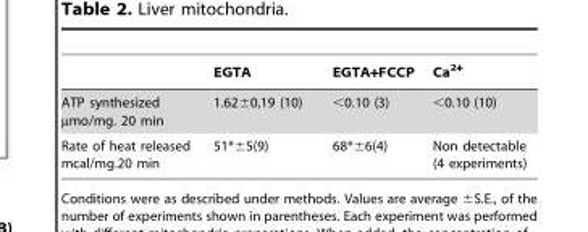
<table><thead><tr><td></td><td>EGTA</td><td>EGTA+FCCP</td><td>Ca<sup>2+</sup></td></tr></thead><tbody><tr><td>ATP synthesized µmo/mg. 20 min</td><td>1.62±0,19 (10)</td><td>&lt;0.10 (3)</td><td>&lt;0.10 (10)</td></tr><tr><td>Rate of heat released mcal/mg.20 min</td><td>51*±5(9)</td><td>68*±6(4)</td><td>Non detectable (4 experiments)</td></tr></tbody></table>